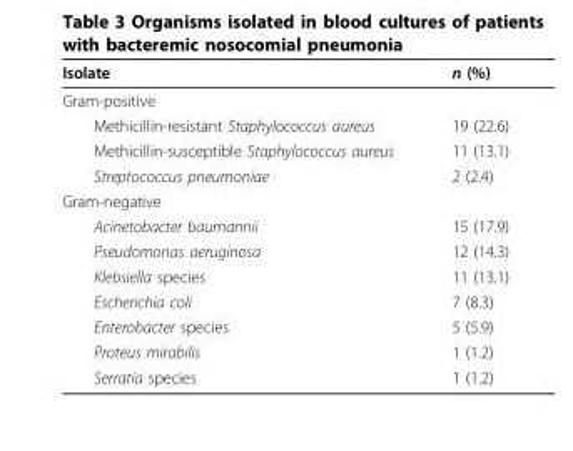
<table><thead><tr><td>Isolate</td><td>n (%)</td></tr></thead><tbody><tr><td colspan="2">Gram-positive</td></tr><tr><td>Methicillin-resistant Staphylococcus aureus</td><td>19 (22.6)</td></tr><tr><td>Methicillin-susceptible Staphylococcus aureus</td><td>11 (13.1)</td></tr><tr><td>Streptococcus pneumoniae</td><td>2 (2.4)</td></tr><tr><td colspan="2">Gram-negative</td></tr><tr><td>Acinetobacter baumannii</td><td>15 (17.9)</td></tr><tr><td>Pseudomonas aeruginosa</td><td>12 (14.3)</td></tr><tr><td>Klebsiella species</td><td>11 (13.1)</td></tr><tr><td>Escherichia coli</td><td>7 (8.3)</td></tr><tr><td>Enterobacter species</td><td>5 (5.9)</td></tr><tr><td>Proteus mirabilis</td><td>1 (1.2)</td></tr><tr><td>Serratia species</td><td>1 (1.2)</td></tr></tbody></table>